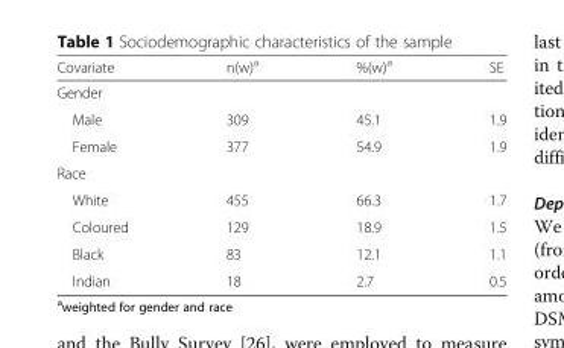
<table><thead><tr><td>Covariate</td><td>n(w)<sup>a</sup></td><td>%(w)<sup>a</sup></td><td>SE</td></tr></thead><tbody><tr><td colspan="4">Gender</td></tr><tr><td>Male</td><td>309</td><td>45.1</td><td>1.9</td></tr><tr><td>Female</td><td>377</td><td>54.9</td><td>1.9</td></tr><tr><td colspan="4">Race</td></tr><tr><td>White</td><td>455</td><td>66.3</td><td>1.7</td></tr><tr><td>Coloured</td><td>129</td><td>18.9</td><td>1.5</td></tr><tr><td>Black</td><td>83</td><td>12.1</td><td>1.1</td></tr><tr><td>Indian</td><td>18</td><td>2.7</td><td>0.5</td></tr></tbody></table>